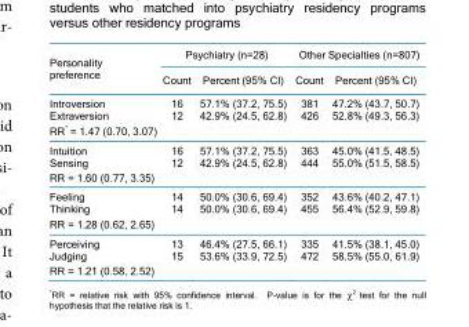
<table><thead><tr><td rowspan="2">Personality preference</td><td colspan="2">Psychiatry (n=28)</td><td colspan="2">Other Specialties (n=807)</td></tr><tr><td>Count</td><td>Percent (95% CI)</td><td>Count</td><td>Percent (95% CI)</td></tr></thead><tbody><tr><td>Introversion</td><td>16</td><td>57.1% (37.2, 75.5)</td><td>381</td><td>47.2% (43.7, 50.7)</td></tr><tr><td>Extraversion</td><td>12</td><td>42.9% (24.5, 62.8)</td><td>426</td><td>52.8% (49.3, 56.3)</td></tr><tr><td colspan="5">RR* = 1.47 (0.70, 3.07)</td></tr><tr><td>Intuition</td><td>16</td><td>57.1% (37.2, 75.5)</td><td>363</td><td>45.0% (41.5, 48.5)</td></tr><tr><td>Sensing</td><td>12</td><td>42.9% (24.5, 62.8)</td><td>444</td><td>55.0% (51.5, 58.5)</td></tr><tr><td colspan="5">RR = 1.60 (0.77, 3.35)</td></tr><tr><td>Feeling</td><td>14</td><td>50.0% (30.6, 69.4)</td><td>352</td><td>43.6% (40.2, 47.1)</td></tr><tr><td>Thinking</td><td>14</td><td>50.0% (30.6, 69.4)</td><td>455</td><td>56.4% (52.9, 59.8)</td></tr><tr><td colspan="5">RR = 1.28 (0.62, 2.65)</td></tr><tr><td>Perceiving</td><td>13</td><td>46.4% (27.5, 66.1)</td><td>335</td><td>41.5% (38.1, 45.0)</td></tr><tr><td>Judging</td><td>15</td><td>53.6% (33.9, 72.5)</td><td>472</td><td>58.5% (55.0, 61.9)</td></tr><tr><td>RR = 1.21 (0.58, 2.52)</td><td></td><td></td><td></td><td></td></tr></tbody></table>